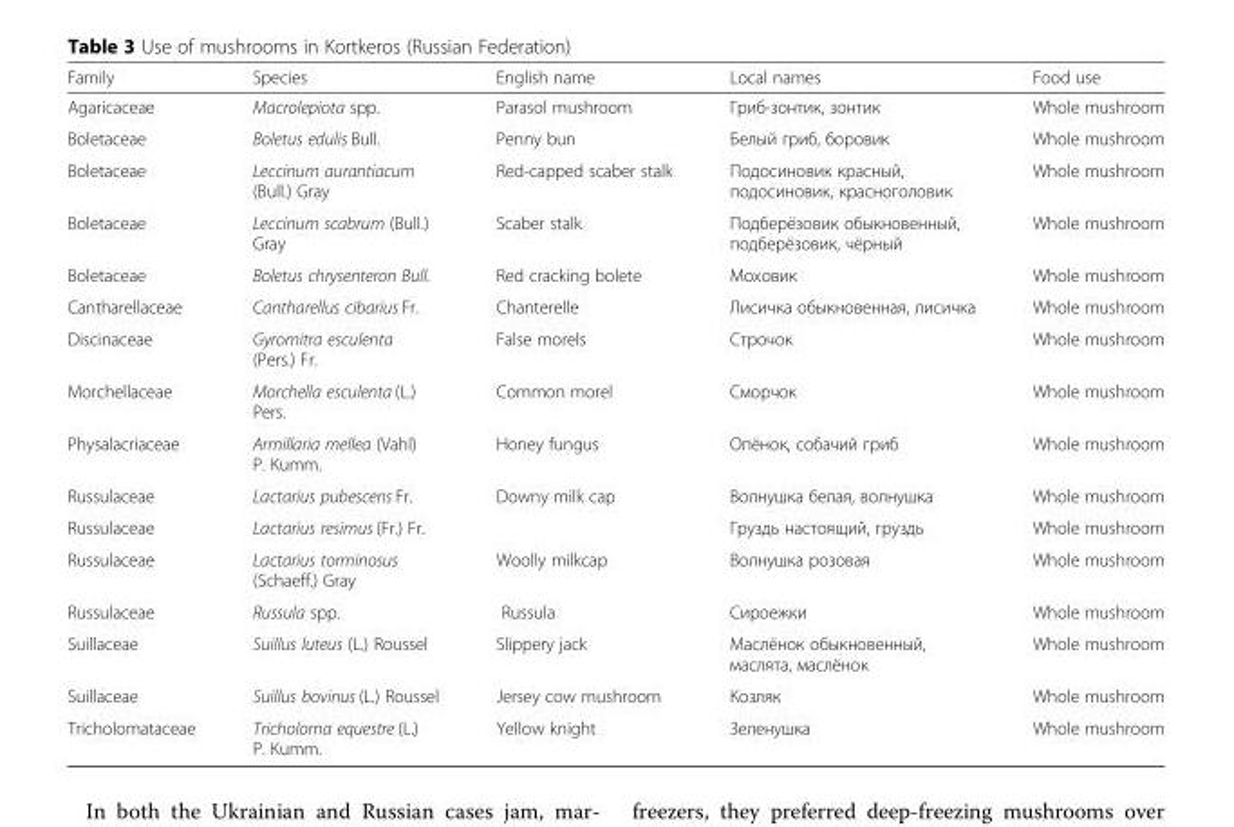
<table><thead><tr><td>Family</td><td>Species</td><td>English name</td><td>Local names</td><td>Food use</td></tr></thead><tbody><tr><td>Agaricaceae</td><td>Macrolepiota spp.</td><td>Parasol mushroom</td><td>Гриб-зонтик, зонтик</td><td>Whole mushroom</td></tr><tr><td>Boletaceae</td><td>Boletus edulis Bull.</td><td>Penny bun</td><td>Белый гриб, боровик</td><td>Whole mushroom</td></tr><tr><td>Boletaceae</td><td>Leccinum aurantiacum (Bull.) Gray</td><td>Red-capped scaber stalk</td><td>Подосиновик красный, подосиновик, красноголовик</td><td>Whole mushroom</td></tr><tr><td>Boletaceae</td><td>Leccinum scabrum (Bull.) Gray</td><td>Scaber stalk</td><td>Подберёзовик обыкновенный, подберёзовик, чёрный</td><td>Whole mushroom</td></tr><tr><td>Boletaceae</td><td>Boletus chrysenteron Bull.</td><td>Red cracking bolete</td><td>Моховик</td><td>Whole mushroom</td></tr><tr><td>Cantharellaceae</td><td>Cantharellus cibarius Fr.</td><td>Chanterelle</td><td>Лисичка обыкновенная, лисичка</td><td>Whole mushroom</td></tr><tr><td>Discinaceae</td><td>Gyromitra esculenta (Pers.) Fr.</td><td>False morels</td><td>Строчок</td><td>Whole mushroom</td></tr><tr><td>Morchellaceae</td><td>Morchella esculenta (L.) Pers.</td><td>Common morel</td><td>Сморчок</td><td>Whole mushroom</td></tr><tr><td>Physalacriaceae</td><td>Armillaria mellea (Vahl) P. Kumm.</td><td>Honey fungus</td><td>Опёнок, собачий гриб</td><td>Whole mushroom</td></tr><tr><td>Russulaceae</td><td>Lactarius pubescens Fr.</td><td>Downy milk cap</td><td>Волнушка белая, волнушка</td><td>Whole mushroom</td></tr><tr><td>Russulaceae</td><td>Lactarius resimus (Fr.) Fr.</td><td></td><td>Груздь настоящий, груздь</td><td>Whole mushroom</td></tr><tr><td>Russulaceae</td><td>Lactarius torminosus (Schaeff.) Gray</td><td>Woolly milkcap</td><td>Волнушка розовая</td><td>Whole mushroom</td></tr><tr><td>Russulaceae</td><td>Russula spp.</td><td>Russula</td><td>Cироежки</td><td>Whole mushroom</td></tr><tr><td>Suillaceae</td><td>Suillus luteus (L.) Roussel</td><td>Slippery jack</td><td>Маслёнок обыкновенный, маслята, маслёнок</td><td>Whole mushroom</td></tr><tr><td>Suillaceae</td><td>Suillus bovinus (L.) Roussel</td><td>Jersey cow mushroom</td><td>Козляк</td><td>Whole mushroom</td></tr><tr><td>Tricholomataceae</td><td>Tricholoma equestre (L.) P. Kumm.</td><td>Yellow knight</td><td>Зеленушка</td><td>Whole mushroom</td></tr></tbody></table>